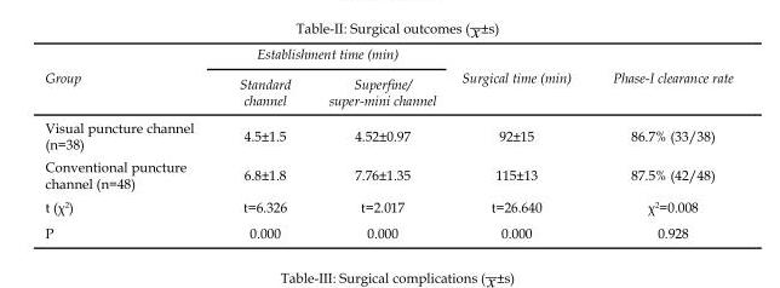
<table><thead><tr><td rowspan="2">Group</td><td colspan="2">Establishment time (min)</td><td rowspan="2">Surgical time (min)</td><td rowspan="2">Phase-I clearance rate</td></tr><tr><td>Standard channel</td><td>Superfine/ super-mini channel</td></tr></thead><tbody><tr><td>Visual puncture channel (n=38)</td><td>4.5±1.5</td><td>4.52±0.97</td><td>92±15</td><td>86.7% (33/38)</td></tr><tr><td>Conventional puncture channel (n=48)</td><td>6.8±1.8</td><td>7.76±1.35</td><td>115±13</td><td>87.5% (42/48)</td></tr><tr><td>t (χ<sup>2</sup>)</td><td>t=6.326</td><td>t=2.017</td><td>t=26.640</td><td>χ<sup>2</sup>=0.008</td></tr><tr><td>P</td><td>0.000</td><td>0.000</td><td>0.000</td><td>0.928</td></tr></tbody></table>